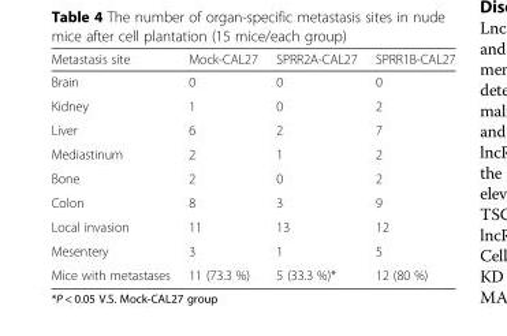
<table><thead><tr><td>Metastasis site</td><td>Mock-CAL27</td><td>SPRR2A-CAL27</td><td>SPRR1B-CAL27</td></tr></thead><tbody><tr><td>Brain</td><td>0</td><td>0</td><td>0</td></tr><tr><td>Kidney</td><td>1</td><td>0</td><td>2</td></tr><tr><td>Liver</td><td>6</td><td>2</td><td>7</td></tr><tr><td>Mediastinum</td><td>2</td><td>1</td><td>2</td></tr><tr><td>Bone</td><td>2</td><td>0</td><td>2</td></tr><tr><td>Colon</td><td>8</td><td>3</td><td>9</td></tr><tr><td>Local invasion</td><td>11</td><td>13</td><td>12</td></tr><tr><td>Mesentery</td><td>3</td><td>1</td><td>5</td></tr><tr><td>Mice with metastases</td><td>11 (73.3 %)</td><td>5 (33.3 %)*</td><td>12 (80 %)</td></tr></tbody></table>